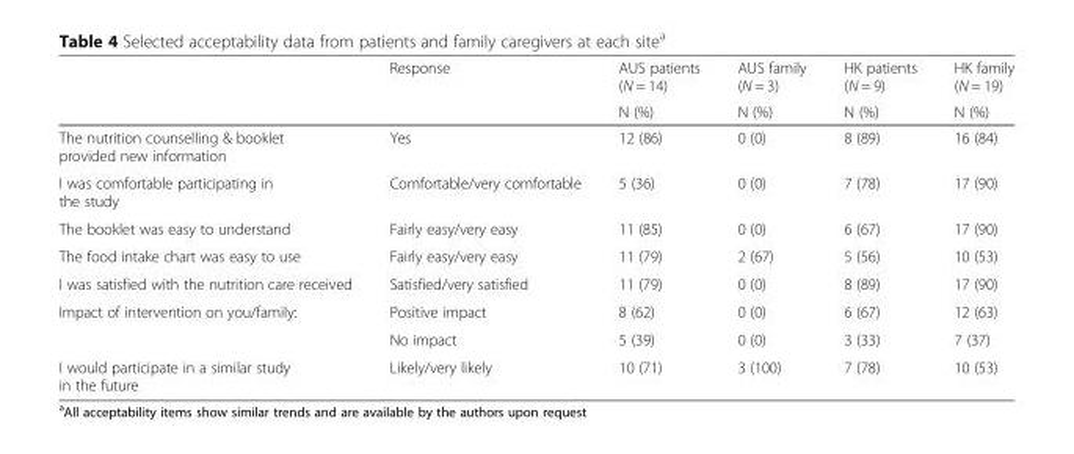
<table><thead><tr><td rowspan="2"></td><td rowspan="2">Response</td><td rowspan="2">AUS patients (N = 14) N (%)</td><td rowspan="2">AUS family (N = 3) N (%)</td><td rowspan="2">HK patients (N = 9) N (%)</td><td rowspan="2">HK family (N = 19) N (%)</td></tr><tr></tr></thead><tbody><tr><td>The nutrition counselling &amp; booklet provided new information</td><td>Yes</td><td>12 (86)</td><td>0 (0)</td><td>8 (89)</td><td>16 (84)</td></tr><tr><td>I was comfortable participating in the study</td><td>Comfortable/very comfortable</td><td>5 (36)</td><td>0 (0)</td><td>7 (78)</td><td>17 (90)</td></tr><tr><td>The booklet was easy to understand</td><td>Fairly easy/very easy</td><td>11 (85)</td><td>0 (0)</td><td>6 (67)</td><td>17 (90)</td></tr><tr><td>The food intake chart was easy to use</td><td>Fairly easy/very easy</td><td>11 (79)</td><td>2 (67)</td><td>5 (56)</td><td>10 (53)</td></tr><tr><td>I was satisfied with the nutrition care received</td><td>Satisfied/very satisfied</td><td>11 (79)</td><td>0 (0)</td><td>8 (89)</td><td>17 (90)</td></tr><tr><td rowspan="2">Impact of intervention on you/family:</td><td>Positive impact</td><td>8 (62)</td><td>0 (0)</td><td>6 (67)</td><td>12 (63)</td></tr><tr><td>No impact</td><td>5 (39)</td><td>0 (0)</td><td>3 (33)</td><td>7 (37)</td></tr><tr><td>I would participate in a similar study in the future</td><td>Likely/very likely</td><td>10 (71)</td><td>3 (100)</td><td>7 (78)</td><td>10 (53)</td></tr></tbody></table>